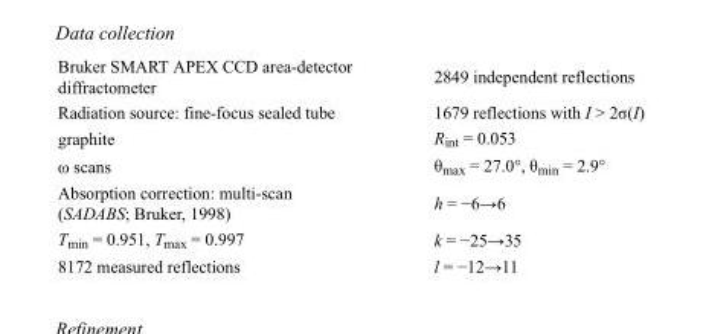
<table><tbody><tr><td>Bruker SMART APEX CCD area-detector diffractometer</td><td>2849 independent reflections</td></tr><tr><td>Radiation source: fine-focus sealed tube</td><td>1679 reflections with I &gt; 2σ(I)</td></tr><tr><td>graphite</td><td>R<sub>int</sub> = 0.053</td></tr><tr><td>ω scans</td><td>θ<sub>max</sub> = 27.0°, θ<sub>min</sub> = 2.9°</td></tr><tr><td>Absorption correction: multi-scan (SADABS; Bruker, 1998)</td><td>h = −6→6</td></tr><tr><td>T<sub>min</sub> = 0.951, T<sub>max</sub> = 0.997</td><td>k = −25→35</td></tr><tr><td>8172 measured reflections</td><td>l = −12→11</td></tr></tbody></table>